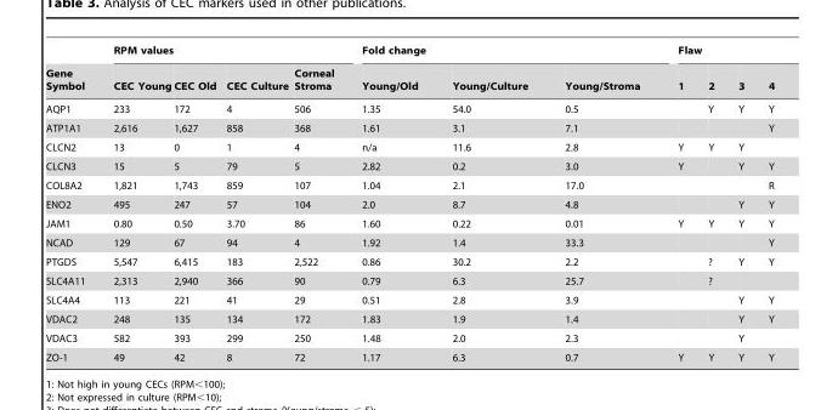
<table><thead><tr><td rowspan="2">Gene Symbol</td><td colspan="4">RPM values</td><td colspan="3">Fold change</td><td colspan="4">Flaw</td></tr><tr><td>CEC Young</td><td>CEC Old</td><td>CEC Culture</td><td>Corneal Stroma</td><td>Young/Old</td><td>Young/Culture</td><td>Young/Stroma</td><td>1</td><td>2</td><td>3</td><td>4</td></tr></thead><tbody><tr><td>AQP1</td><td>233</td><td>172</td><td>4</td><td>506</td><td>1.35</td><td>54.0</td><td>0.5</td><td></td><td>Y</td><td>Y</td><td>Y</td></tr><tr><td>ATP1A1</td><td>2,616</td><td>1,627</td><td>858</td><td>368</td><td>1.61</td><td>3.1</td><td>7.1</td><td></td><td></td><td></td><td>Y</td></tr><tr><td>CLCN2</td><td>13</td><td>0</td><td>1</td><td>4</td><td>n/a</td><td>11.6</td><td>2.8</td><td>Y</td><td>Y</td><td>Y</td><td></td></tr><tr><td>CLCN3</td><td>15</td><td>5</td><td>79</td><td>5</td><td>2.82</td><td>0.2</td><td>3.0</td><td>Y</td><td></td><td>Y</td><td>Y</td></tr><tr><td>COL8A2</td><td>1,821</td><td>1,743</td><td>859</td><td>107</td><td>1.04</td><td>2.1</td><td>17.0</td><td></td><td></td><td></td><td>R</td></tr><tr><td>ENO2</td><td>495</td><td>247</td><td>57</td><td>104</td><td>2.0</td><td>8.7</td><td>4.8</td><td></td><td></td><td>Y</td><td>Y</td></tr><tr><td>JAM1</td><td>0.80</td><td>0.50</td><td>3.70</td><td>86</td><td>1.60</td><td>0.22</td><td>0.01</td><td>Y</td><td>Y</td><td>Y</td><td>Y</td></tr><tr><td>NCAD</td><td>129</td><td>67</td><td>94</td><td>4</td><td>1.92</td><td>1.4</td><td>33.3</td><td></td><td></td><td></td><td>Y</td></tr><tr><td>PTGDS</td><td>5,547</td><td>6,415</td><td>183</td><td>2,522</td><td>0.86</td><td>30.2</td><td>2.2</td><td></td><td>?</td><td>Y</td><td>Y</td></tr><tr><td>SLC4A11</td><td>2,313</td><td>2,940</td><td>366</td><td>90</td><td>0.79</td><td>6.3</td><td>25.7</td><td></td><td>?</td><td></td><td></td></tr><tr><td>SLC4A4</td><td>113</td><td>221</td><td>41</td><td>29</td><td>0.51</td><td>2.8</td><td>3.9</td><td></td><td></td><td>Y</td><td>Y</td></tr><tr><td>VDAC2</td><td>248</td><td>135</td><td>134</td><td>172</td><td>1.83</td><td>1.9</td><td>1.4</td><td></td><td></td><td>Y</td><td>Y</td></tr><tr><td>VDAC3</td><td>582</td><td>393</td><td>299</td><td>250</td><td>1.48</td><td>2.0</td><td>2.3</td><td></td><td></td><td>Y</td><td></td></tr><tr><td>ZO-1</td><td>49</td><td>42</td><td>8</td><td>72</td><td>1.17</td><td>6.3</td><td>0.7</td><td>Y</td><td>Y</td><td>Y</td><td>Y</td></tr></tbody></table>